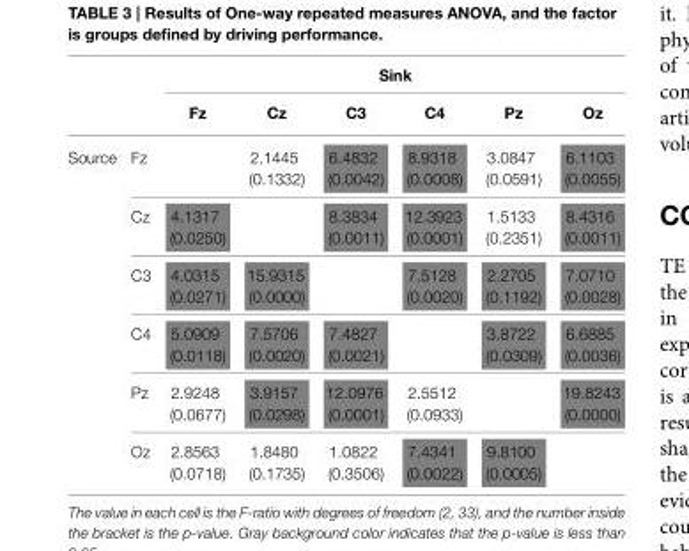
<table><thead><tr><td rowspan="2"></td><td rowspan="2"></td><td colspan="6">Sink</td></tr><tr><td>Fz</td><td>Cz</td><td>C3</td><td>C4</td><td>Pz</td><td>Oz</td></tr></thead><tbody><tr><td rowspan="6">Source</td><td>Fz</td><td></td><td>2.1445 (0.1332)</td><td>6.4832 (0.0042)</td><td>8.9318 (0.0008)</td><td>3.0847 (0.0591)</td><td>6.1103 (0.0055)</td></tr><tr><td>Cz</td><td>4.1317 (0.0250)</td><td></td><td>8.3834 (0.0011)</td><td>12.3923 (0.0001)</td><td>1.5133 (0.2351)</td><td>8.4316 (0.0011)</td></tr><tr><td>C3</td><td>4.0315 (0.0271)</td><td>15.9315 (0.0000)</td><td></td><td>7.5128 (0.0020)</td><td>2.2705 (0.1192)</td><td>7.0710 (0.0028)</td></tr><tr><td>C4</td><td>5.0909 (0.0118)</td><td>7.5706 (0.0020)</td><td>7.4827 (0.0021)</td><td></td><td>3.8722 (0.0309)</td><td>6.6885 (0.0036)</td></tr><tr><td>Pz</td><td>2.9248 (0.0677)</td><td>3.9157 (0.0298)</td><td>12.0976 (0.0001)</td><td>2.5512 (0.0933)</td><td></td><td>19.8243 (0.0000)</td></tr><tr><td>Oz</td><td>2.8563 (0.0718)</td><td>1.8480 (0.1735)</td><td>1.0822 (0.3506)</td><td>7.4341 (0.0022)</td><td>9.8100 (0.0005)</td><td></td></tr></tbody></table>